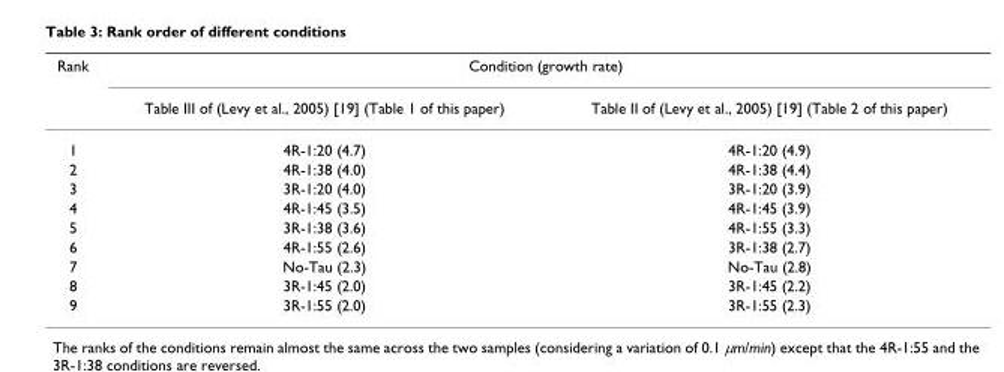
<table><thead><tr><td rowspan="2">Rank</td><td colspan="2">Condition (growth rate)</td></tr><tr><td>Table III of (Levy et al., 2005) [19] (Table 1 of this paper)</td><td>Table II of (Levy et al., 2005) [19] (Table 2 of this paper)</td></tr></thead><tbody><tr><td>1</td><td>4R-1:20 (4.7)</td><td>4R-1:20 (4.9)</td></tr><tr><td>2</td><td>4R-1:38 (4.0)</td><td>4R-1:38 (4.4)</td></tr><tr><td>3</td><td>3R-1:20 (4.0)</td><td>3R-1:20 (3.9)</td></tr><tr><td>4</td><td>4R-1:45 (3.5)</td><td>4R-1:45 (3.9)</td></tr><tr><td>5</td><td>3R-1:38 (3.6)</td><td>4R-1:55 (3.3)</td></tr><tr><td>6</td><td>4R-1:55 (2.6)</td><td>3R-1:38 (2.7)</td></tr><tr><td>7</td><td>No-Tau (2.3)</td><td>No-Tau (2.8)</td></tr><tr><td>8</td><td>3R-1:45 (2.0)</td><td>3R-1:45 (2.2)</td></tr><tr><td>9</td><td>3R-1:55 (2.0)</td><td>3R-1:55 (2.3)</td></tr></tbody></table>